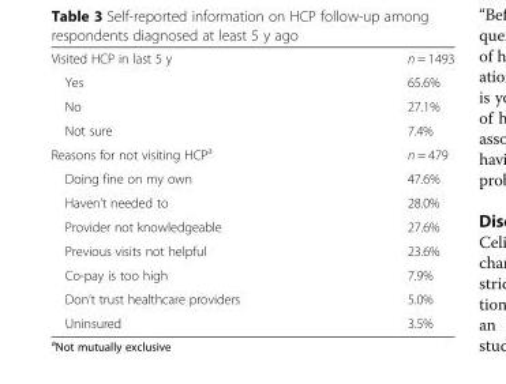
<table><tbody><tr><td>Visited HCP in last 5 y</td><td>n = 1493</td></tr><tr><td>Yes</td><td>65.6%</td></tr><tr><td>No</td><td>27.1%</td></tr><tr><td>Not sure</td><td>7.4%</td></tr><tr><td>Reasons for not visiting HCP<sup>a</sup></td><td>n = 479</td></tr><tr><td>Doing fine on my own</td><td>47.6%</td></tr><tr><td>Haven’t needed to</td><td>28.0%</td></tr><tr><td>Provider not knowledgeable</td><td>27.6%</td></tr><tr><td>Previous visits not helpful</td><td>23.6%</td></tr><tr><td>Co-pay is too high</td><td>7.9%</td></tr><tr><td>Don’t trust healthcare providers</td><td>5.0%</td></tr><tr><td>Uninsured</td><td>3.5%</td></tr></tbody></table>